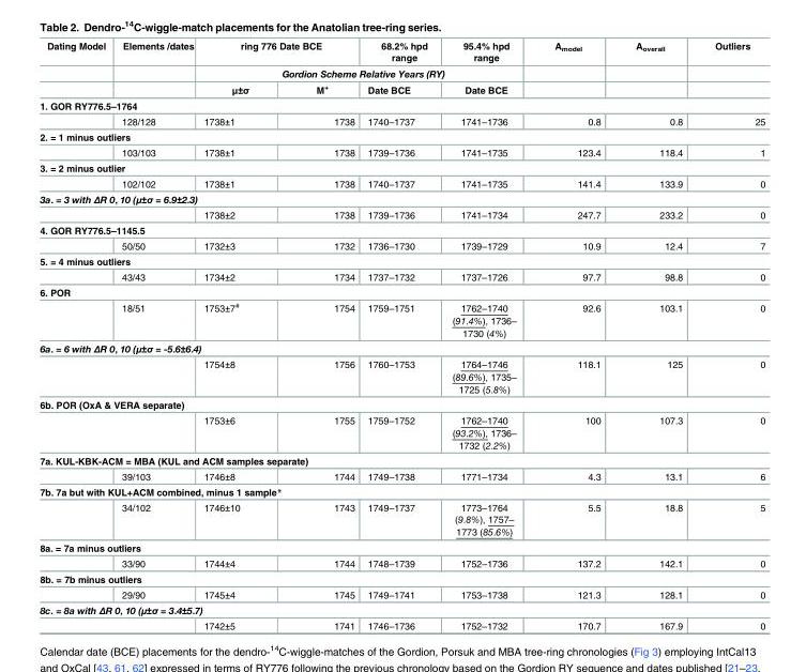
<table><thead><tr><td rowspan="3">Dating Model</td><td rowspan="3">Elements /dates</td><td colspan="2">ring 776 Date BCE</td><td>68.2% hpd range</td><td>95.4% hpd range</td><td rowspan="3">A<sub>model</sub></td><td rowspan="3">A<sub>overall</sub></td><td rowspan="3">Outliers</td></tr><tr><td colspan="4">Gordion Scheme Relative Years (RY)</td></tr><tr><td>μ±σ</td><td>M<sup>+</sup></td><td>Date BCE</td><td>Date BCE</td></tr></thead><tbody><tr><td colspan="9">1. GOR RY776.5–1764</td></tr><tr><td></td><td>128/128</td><td>1738±1</td><td>1738</td><td>1740–1737</td><td>1741–1736</td><td>0.8</td><td>0.8</td><td>25</td></tr><tr><td colspan="9">2. = 1 minus outliers</td></tr><tr><td></td><td>103/103</td><td>1738±1</td><td>1738</td><td>1739–1736</td><td>1741–1735</td><td>123.4</td><td>118.4</td><td>1</td></tr><tr><td colspan="9">3. = 2 minus outlier</td></tr><tr><td></td><td>102/102</td><td>1738±1</td><td>1738</td><td>1740–1737</td><td>1741–1735</td><td>141.4</td><td>133.9</td><td>0</td></tr><tr><td colspan="9">3a. = 3 with ΔR 0, 10 (μ±σ = 6.9±2.3)</td></tr><tr><td colspan="2"></td><td>1738±2</td><td>1738</td><td>1739–1736</td><td>1741–1734</td><td>247.7</td><td>233.2</td><td>0</td></tr><tr><td colspan="9">4. GOR RY776.5–1145.5</td></tr><tr><td></td><td>50/50</td><td>1732±3</td><td>1732</td><td>1736–1730</td><td>1739–1729</td><td>10.9</td><td>12.4</td><td>7</td></tr><tr><td colspan="9">5. = 4 minus outliers</td></tr><tr><td></td><td>43/43</td><td>1734±2</td><td>1734</td><td>1737–1732</td><td>1737–1726</td><td>97.7</td><td>98.8</td><td>0</td></tr><tr><td colspan="9">6. POR</td></tr><tr><td></td><td>18/51</td><td>1753±7<sup>#</sup></td><td>1754</td><td>1759–1751</td><td>1762–1740 (91.4%), 1736– 1730 (4%)</td><td>92.6</td><td>103.1</td><td>0</td></tr><tr><td colspan="9">6a. = 6 with ΔR 0, 10 (μ±σ = -5.6±6.4)</td></tr><tr><td colspan="2"></td><td>1754±8</td><td>1756</td><td>1760–1753</td><td>1764–1746 (89.6%), 1735– 1725 (5.8%)</td><td>118.1</td><td>125</td><td>0</td></tr><tr><td colspan="9">6b. POR (OxA &amp; VERA separate)</td></tr><tr><td colspan="2"></td><td>1753±6</td><td>1755</td><td>1759–1752</td><td>1762–1740 (93.2%), 1736– 1732 (2.2%)</td><td>100</td><td>107.3</td><td>0</td></tr><tr><td colspan="9">7a. KUL-KBK-ACM = MBA (KUL and ACM samples separate)</td></tr><tr><td></td><td>39/103</td><td>1746±8</td><td>1744</td><td>1749–1738</td><td>1771–1734</td><td>4.3</td><td>13.1</td><td>6</td></tr><tr><td colspan="9">7b. 7a but with KUL+ACM combined, minus 1 sample*</td></tr><tr><td></td><td>34/102</td><td>1746±10</td><td>1743</td><td>1749–1737</td><td>1773–1764 (9.8%), 1757– 1773 (85.6%)</td><td>5.5</td><td>18.8</td><td>5</td></tr><tr><td colspan="9">8a. = 7a minus outliers</td></tr><tr><td></td><td>33/90</td><td>1744±4</td><td>1744</td><td>1748–1739</td><td>1752–1736</td><td>137.2</td><td>142.1</td><td>0</td></tr><tr><td colspan="9">8b. = 7b minus outliers</td></tr><tr><td></td><td>29/90</td><td>1745±4</td><td>1745</td><td>1749–1741</td><td>1753–1738</td><td>121.3</td><td>128.1</td><td>0</td></tr><tr><td colspan="9">8c. = 8a with ΔR 0, 10 (μ±σ = 3.4±5.7)</td></tr><tr><td colspan="2"></td><td>1742±5</td><td>1741</td><td>1746–1736</td><td>1752–1732</td><td>170.7</td><td>167.9</td><td>0</td></tr></tbody></table>